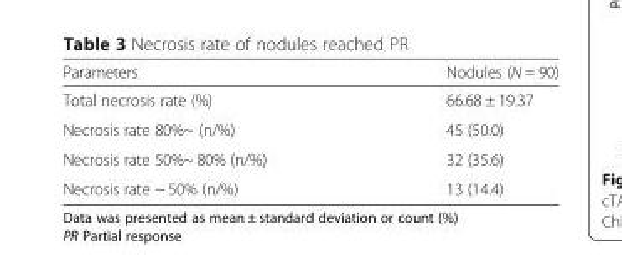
<table><thead><tr><td>Parameters</td><td>Nodules (N = 90)</td></tr></thead><tbody><tr><td>Total necrosis rate (%)</td><td>66.68 ± 19.37</td></tr><tr><td>Necrosis rate 80%~ (n/%)</td><td>45 (50.0)</td></tr><tr><td>Necrosis rate 50%~ 80% (n/%)</td><td>32 (35.6)</td></tr><tr><td>Necrosis rate ~ 50% (n/%)</td><td>13 (14.4)</td></tr></tbody></table>